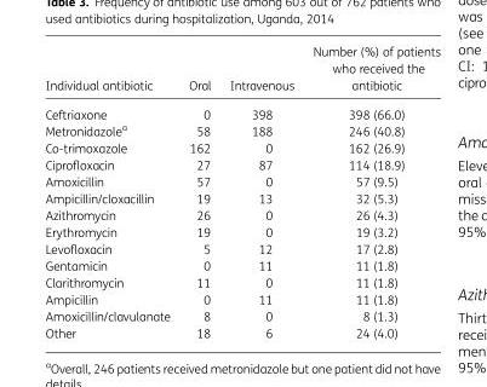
<table><thead><tr><td>Individual antibiotic</td><td>Oral</td><td>Intravenous</td><td>Number (%) of patients who received the antibiotic</td></tr></thead><tbody><tr><td>Ceftriaxone</td><td>0</td><td>398</td><td>398 (66.0)</td></tr><tr><td>Metronidazole<sup>a</sup></td><td>58</td><td>188</td><td>246 (40.8)</td></tr><tr><td>Co-trimoxazole</td><td>162</td><td>0</td><td>162 (26.9)</td></tr><tr><td>Ciprofloxacin</td><td>27</td><td>87</td><td>114 (18.9)</td></tr><tr><td>Amoxicillin</td><td>57</td><td>0</td><td>57 (9.5)</td></tr><tr><td>Ampicillin/cloxacillin</td><td>19</td><td>13</td><td>32 (5.3)</td></tr><tr><td>Azithromycin</td><td>26</td><td>0</td><td>26 (4.3)</td></tr><tr><td>Erythromycin</td><td>19</td><td>0</td><td>19 (3.2)</td></tr><tr><td>Levofloxacin</td><td>5</td><td>12</td><td>17 (2.8)</td></tr><tr><td>Gentamicin</td><td>0</td><td>11</td><td>11 (1.8)</td></tr><tr><td>Clarithromycin</td><td>11</td><td>0</td><td>11 (1.8)</td></tr><tr><td>Ampicillin</td><td>0</td><td>11</td><td>11 (1.8)</td></tr><tr><td>Amoxicillin/clavulanate</td><td>8</td><td>0</td><td>8 (1.3)</td></tr><tr><td>Other</td><td>18</td><td>6</td><td>24 (4.0)</td></tr></tbody></table>